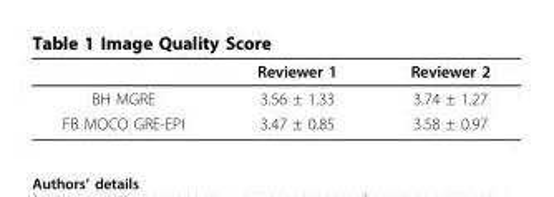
<table><thead><tr><td></td><td>Reviewer 1</td><td>Reviewer 2</td></tr></thead><tbody><tr><td>BH MGRE</td><td>3.56 ± 1.33</td><td>3.74 ± 1.27</td></tr><tr><td>FB MOCO GRE-EPI</td><td>3.47 ± 0.85</td><td>3.58 ± 0.97</td></tr></tbody></table>